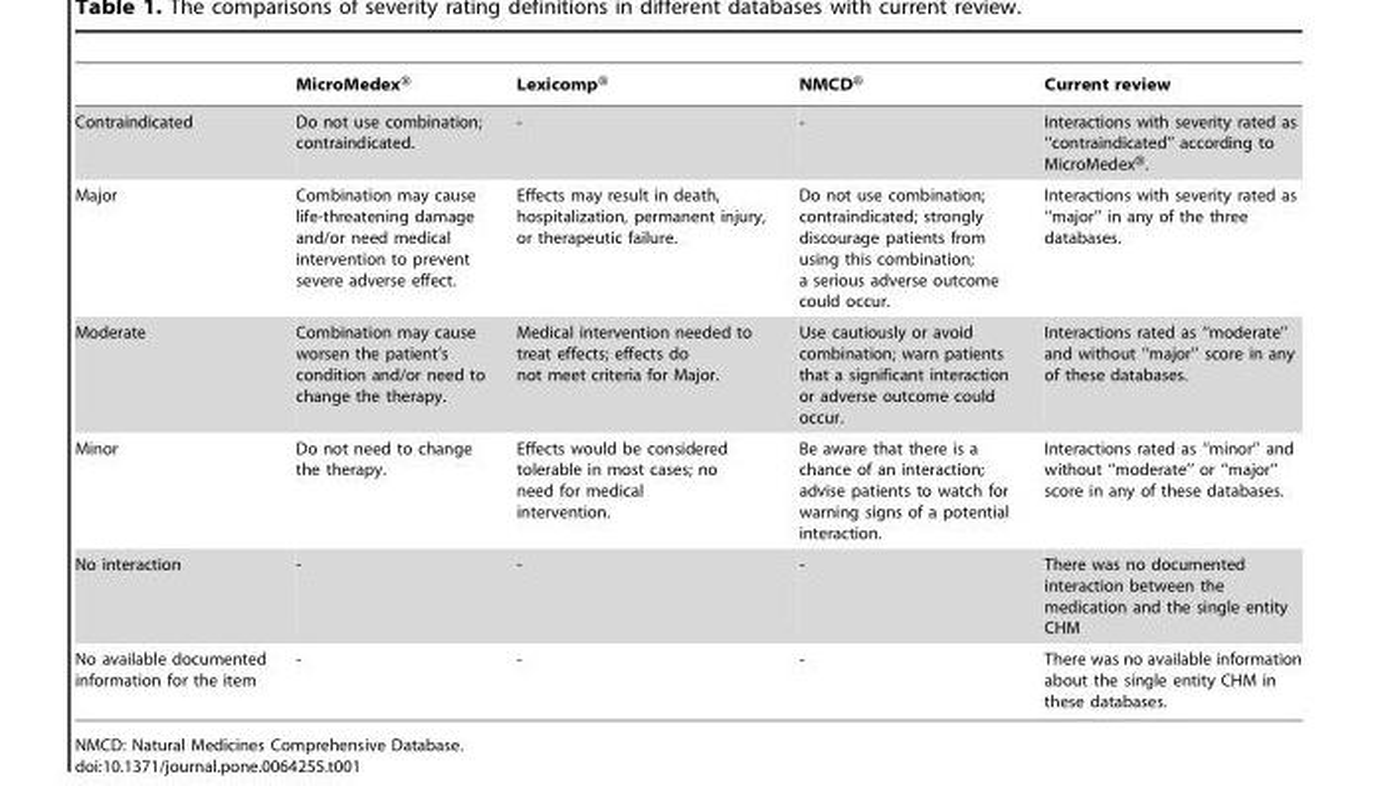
<table><thead><tr><td></td><td>MicroMedex®</td><td>Lexicomp®</td><td>NMCD®</td><td>Current review</td></tr></thead><tbody><tr><td>Contraindicated</td><td>Do not use combination; contraindicated.</td><td>-</td><td>-</td><td>Interactions with severity rated as ‘‘contraindicated’’ according to MicroMedexH.</td></tr><tr><td>Major</td><td>Combination may cause life-threatening damage and/or need medical intervention to prevent severe adverse effect.</td><td>Effects may result in death, hospitalization, permanent injury, or therapeutic failure.</td><td>Do not use combination; contraindicated; strongly discourage patients from using this combination; a serious adverse outcome could occur.</td><td>Interactions with severity rated as ‘‘major’’ in any of the three databases.</td></tr><tr><td>Moderate</td><td>Combination may cause worsen the patient’s condition and/or need to change the therapy.</td><td>Medical intervention needed to treat effects; effects do not meet criteria for Major.</td><td>Use cautiously or avoid combination; warn patients that a significant interaction or adverse outcome could occur.</td><td>Interactions rated as ‘‘moderate’’ and without ‘‘major’’ score in any of these databases.</td></tr><tr><td>Minor</td><td>Do not need to change the therapy.</td><td>Effects would be considered tolerable in most cases; no need for medical intervention.</td><td>Be aware that there is a chance of an interaction; advise patients to watch for warning signs of a potential interaction.</td><td>Interactions rated as ‘‘minor’’ and without ‘‘moderate’’ or ‘‘major’’ score in any of these databases.</td></tr><tr><td>No interaction</td><td>-</td><td>-</td><td>-</td><td>There was no documented interaction between the medication and the single entity CHM</td></tr><tr><td>No available documented information for the item</td><td>-</td><td>-</td><td>-</td><td>There was no available information about the single entity CHM in these databases.</td></tr></tbody></table>